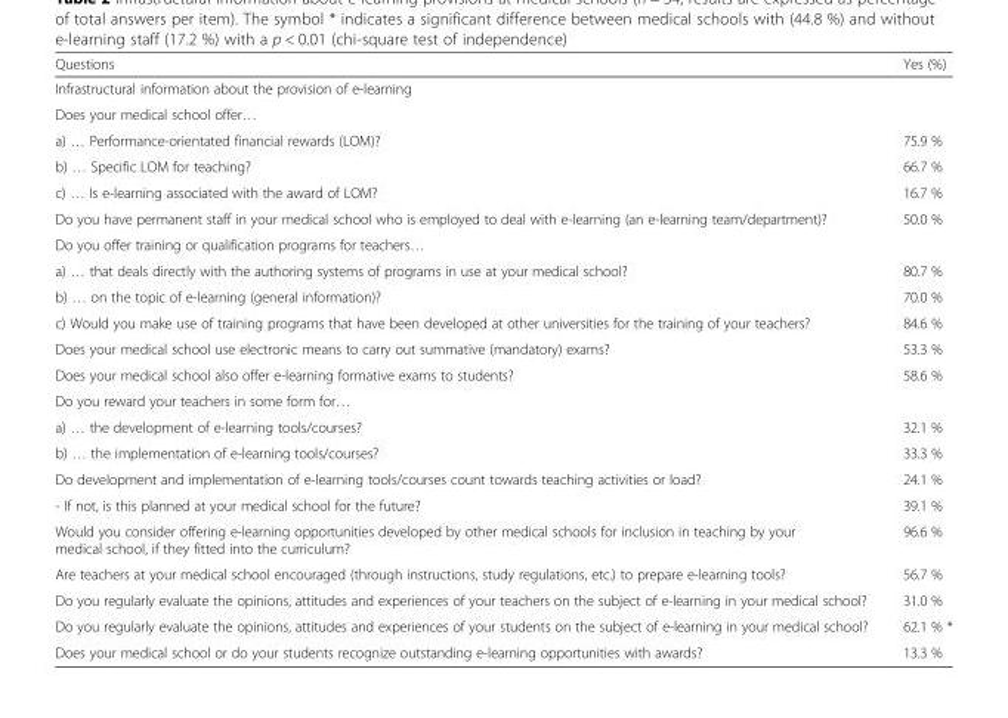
<table><thead><tr><td>Questions</td><td>Yes (%)</td></tr></thead><tbody><tr><td colspan="2">Infrastructural information about the provision of e-learning</td></tr><tr><td colspan="2">Does your medical school offer…</td></tr><tr><td>a) … Performance-orientated financial rewards (LOM)?</td><td>75.9 %</td></tr><tr><td>b) … Specific LOM for teaching?</td><td>66.7 %</td></tr><tr><td>c) … Is e-learning associated with the award of LOM?</td><td>16.7 %</td></tr><tr><td>Do you have permanent staff in your medical school who is employed to deal with e-learning (an e-learning team/department)?</td><td>50.0 %</td></tr><tr><td colspan="2">Do you offer training or qualification programs for teachers…</td></tr><tr><td>a) … that deals directly with the authoring systems of programs in use at your medical school?</td><td>80.7 %</td></tr><tr><td>b) … on the topic of e-learning (general information)?</td><td>70.0 %</td></tr><tr><td>c) Would you make use of training programs that have been developed at other universities for the training of your teachers?</td><td>84.6 %</td></tr><tr><td>Does your medical school use electronic means to carry out summative (mandatory) exams?</td><td>53.3 %</td></tr><tr><td>Does your medical school also offer e-learning formative exams to students?</td><td>58.6 %</td></tr><tr><td colspan="2">Do you reward your teachers in some form for…</td></tr><tr><td>a) … the development of e-learning tools/courses?</td><td>32.1 %</td></tr><tr><td>b) … the implementation of e-learning tools/courses?</td><td>33.3 %</td></tr><tr><td>Do development and implementation of e-learning tools/courses count towards teaching activities or load?</td><td>24.1 %</td></tr><tr><td>- If not, is this planned at your medical school for the future?</td><td>39.1 %</td></tr><tr><td>Would you consider offering e-learning opportunities developed by other medical schools for inclusion in teaching by your medical school, if they fitted into the curriculum?</td><td>96.6 %</td></tr><tr><td>Are teachers at your medical school encouraged (through instructions, study regulations, etc.) to prepare e-learning tools?</td><td>56.7 %</td></tr><tr><td>Do you regularly evaluate the opinions, attitudes and experiences of your teachers on the subject of e-learning in your medical school?</td><td>31.0 %</td></tr><tr><td>Do you regularly evaluate the opinions, attitudes and experiences of your students on the subject of e-learning in your medical school?</td><td>62.1 % *</td></tr><tr><td>Does your medical school or do your students recognize outstanding e-learning opportunities with awards?</td><td>13.3 %</td></tr></tbody></table>